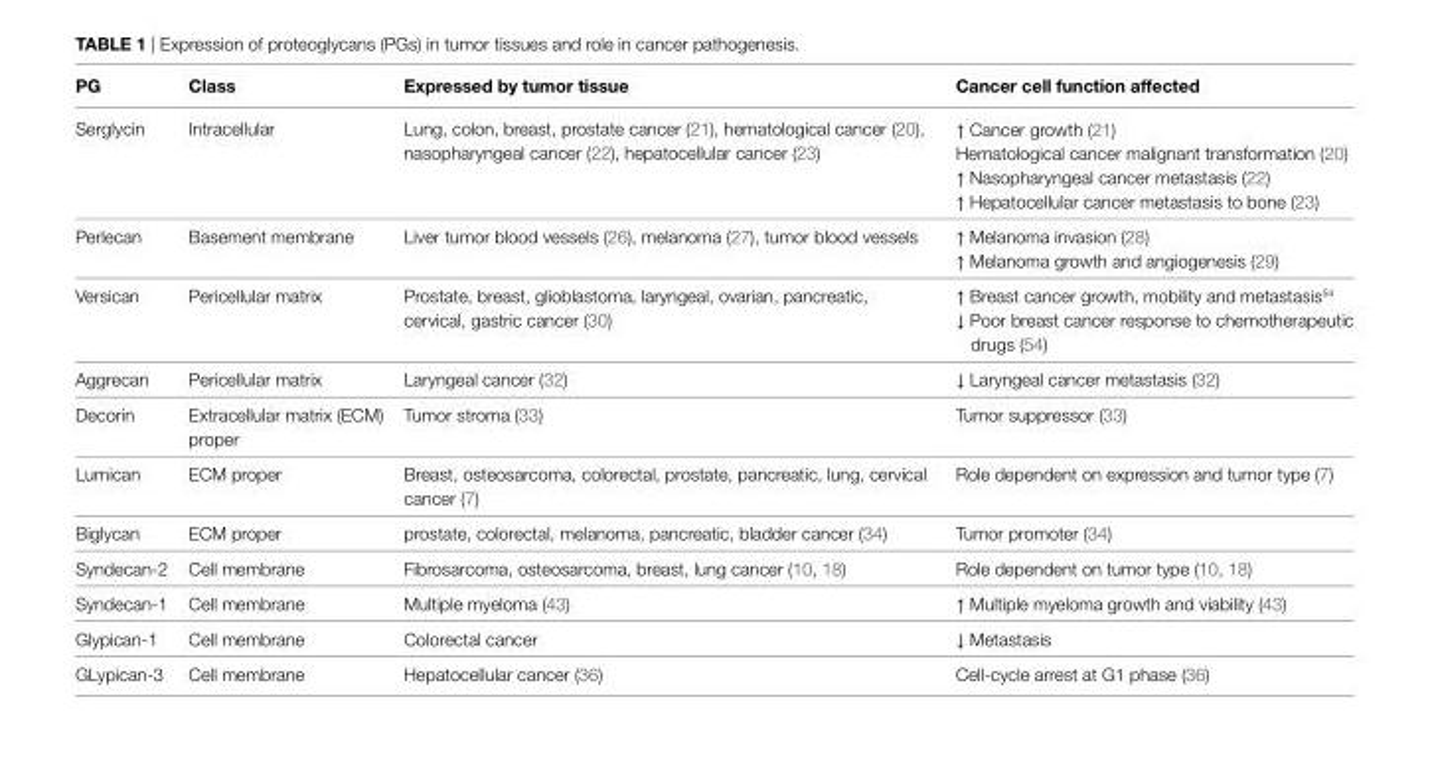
<table><thead><tr><td>PG</td><td>Class</td><td>expressed by tumor tissue</td><td>Cancer cell function affected</td></tr></thead><tbody><tr><td>Serglycin</td><td>Intracellular</td><td>Lung, colon, breast, prostate cancer (21), hematological cancer (20), nasopharyngeal cancer (22), hepatocellular cancer (23)</td><td>↑ Cancer growth (21) Hematological cancer malignant transformation (20) ↑ Nasopharyngeal cancer metastasis (22) ↑ Hepatocellular cancer metastasis to bone (23)</td></tr><tr><td>Perlecan</td><td>Basement membrane</td><td>Liver tumor blood vessels (26), melanoma (27), tumor blood vessels</td><td>↑ Melanoma invasion (28) ↑ Melanoma growth and angiogenesis (29)</td></tr><tr><td>Versican</td><td>Pericellular matrix</td><td>Prostate, breast, glioblastoma, laryngeal, ovarian, pancreatic, cervical, gastric cancer (30)</td><td>↑ Breast cancer growth, mobility and metastasis<sup>54</sup> ↓ Poor breast cancer response to chemotherapeutic drugs (54)</td></tr><tr><td>Aggrecan</td><td>Pericellular matrix</td><td>Laryngeal cancer (32)</td><td>↓ Laryngeal cancer metastasis (32)</td></tr><tr><td>Decorin</td><td>Extracellular matrix (ECM) proper</td><td>Tumor stroma (33)</td><td>Tumor suppressor (33)</td></tr><tr><td>Lumican</td><td>ECM proper</td><td>Breast, osteosarcoma, colorectal, prostate, pancreatic, lung, cervical cancer (7)</td><td>Role dependent on expression and tumor type (7)</td></tr><tr><td>Biglycan</td><td>ECM proper</td><td>prostate, colorectal, melanoma, pancreatic, bladder cancer (34)</td><td>Tumor promoter (34)</td></tr><tr><td>Syndecan-2</td><td>Cell membrane</td><td>Fibrosarcoma, osteosarcoma, breast, lung cancer (10, 18)</td><td>Role dependent on tumor type (10, 18)</td></tr><tr><td>Syndecan-1</td><td>Cell membrane</td><td>Multiple myeloma (43)</td><td>↑ Multiple myeloma growth and viability (43)</td></tr><tr><td>Glypican-1</td><td>Cell membrane</td><td>Colorectal cancer</td><td>↓ Metastasis</td></tr><tr><td>GLypican-3</td><td>Cell membrane</td><td>Hepatocellular cancer (36)</td><td>Cell-cycle arrest at G1 phase (36)</td></tr></tbody></table>